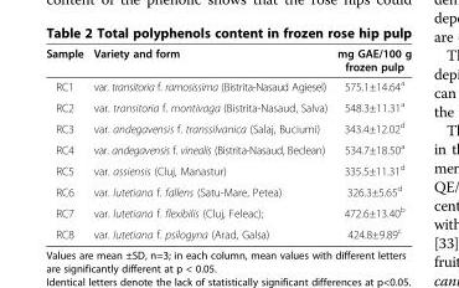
<table><thead><tr><td>Sample</td><td>Variety and form</td><td>mg GAE/100 g frozen pulp</td></tr></thead><tbody><tr><td>RC1</td><td>var. transitoria f. ramosissima (Bistrita-Nasaud Agiesel)</td><td>575.1±14.64<sup>a</sup></td></tr><tr><td>RC2</td><td>var. transitoria f. montivaga (Bistrita-Nasaud, Salva)</td><td>548.3±11.31<sup>a</sup></td></tr><tr><td>RC3</td><td>var. andegavensis f. transsilvanica (Salaj, Buciumi)</td><td>343.4±12.02<sup>d</sup></td></tr><tr><td>RC4</td><td>var. andegavensis f. vinealis (Bistrita-Nasaud, Beclean)</td><td>534.7±18.50<sup>a</sup></td></tr><tr><td>RC5</td><td>var. assiensis (Cluj, Manastur)</td><td>335.5±11.31<sup>d</sup></td></tr><tr><td>RC6</td><td>var. lutetiana f. fallens (Satu-Mare, Petea)</td><td>326.3±5.65<sup>d</sup></td></tr><tr><td>RC7</td><td>var. lutetiana f. flexibilis (Cluj, Feleac);</td><td>472.6±13.40<sup>b</sup></td></tr><tr><td>RC8</td><td>var. lutetiana f. psilogyna (Arad, Galsa)</td><td>424.8±9.89<sup>c</sup></td></tr></tbody></table>